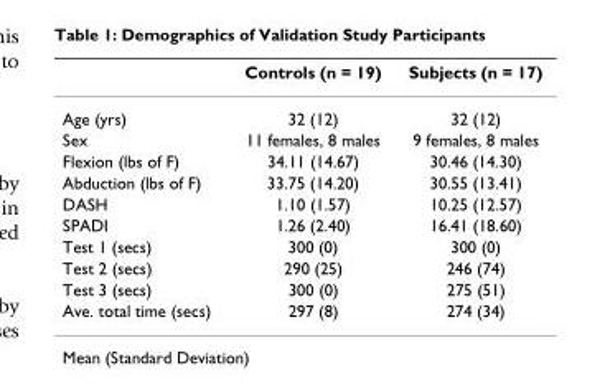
<table><thead><tr><td></td><td>Controls (n = 19)</td><td>Subjects (n = 17)</td></tr></thead><tbody><tr><td>Age (yrs)</td><td>32 (12)</td><td>32 (12)</td></tr><tr><td>Sex</td><td>11 females, 8 males</td><td>9 females, 8 males</td></tr><tr><td>Flexion (lbs of F)</td><td>34.11 (14.67)</td><td>30.46 (14.30)</td></tr><tr><td>Abduction (lbs of F)</td><td>33.75 (14.20)</td><td>30.55 (13.41)</td></tr><tr><td>DASH</td><td>1.10 (1.57)</td><td>10.25 (12.57)</td></tr><tr><td>SPADI</td><td>1.26 (2.40)</td><td>16.41 (18.60)</td></tr><tr><td>Test 1 (secs)</td><td>300 (0)</td><td>300 (0)</td></tr><tr><td>Test 2 (secs)</td><td>290 (25)</td><td>246 (74)</td></tr><tr><td>Test 3 (secs)</td><td>300 (0)</td><td>275 (51)</td></tr><tr><td>Ave. total time (secs)</td><td>297 (8)</td><td>274 (34)</td></tr></tbody></table>